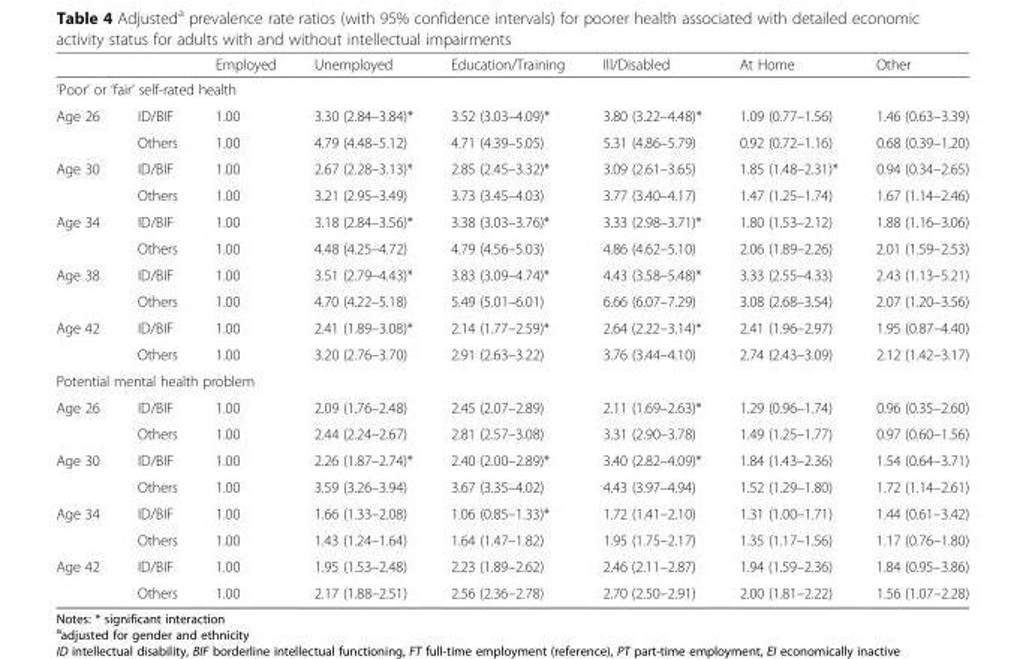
<table><thead><tr><td></td><td></td><td>Employed</td><td>Unemployed</td><td>Education/Training</td><td>Ill/Disabled</td><td>At Home</td><td>Other</td></tr></thead><tbody><tr><td colspan="8">‘Poor’ or ‘fair’ self-rated health</td></tr><tr><td rowspan="2">Age 26</td><td>ID/BIF</td><td>1.00</td><td>3.30 (2.84–3.84)*</td><td>3.52 (3.03–4.09)*</td><td>3.80 (3.22–4.48)*</td><td>1.09 (0.77–1.56)</td><td>1.46 (0.63–3.39)</td></tr><tr><td>Others</td><td>1.00</td><td>4.79 (4.48–5.12)</td><td>4.71 (4.39–5.05)</td><td>5.31 (4.86–5.79)</td><td>0.92 (0.72–1.16)</td><td>0.68 (0.39–1.20)</td></tr><tr><td rowspan="2">Age 30</td><td>ID/BIF</td><td>1.00</td><td>2.67 (2.28–3.13)*</td><td>2.85 (2.45–3.32)*</td><td>3.09 (2.61–3.65)</td><td>1.85 (1.48–2.31)*</td><td>0.94 (0.34–2.65)</td></tr><tr><td>Others</td><td>1.00</td><td>3.21 (2.95–3.49)</td><td>3.73 (3.45–4.03)</td><td>3.77 (3.40–4.17)</td><td>1.47 (1.25–1.74)</td><td>1.67 (1.14–2.46)</td></tr><tr><td rowspan="2">Age 34</td><td>ID/BIF</td><td>1.00</td><td>3.18 (2.84–3.56)*</td><td>3.38 (3.03–3.76)*</td><td>3.33 (2.98–3.71)*</td><td>1.80 (1.53–2.12)</td><td>1.88 (1.16–3.06)</td></tr><tr><td>Others</td><td>1.00</td><td>4.48 (4.25–4.72)</td><td>4.79 (4.56–5.03)</td><td>4.86 (4.62–5.10)</td><td>2.06 (1.89–2.26)</td><td>2.01 (1.59–2.53)</td></tr><tr><td rowspan="2">Age 38</td><td>ID/BIF</td><td>1.00</td><td>3.51 (2.79–4.43)*</td><td>3.83 (3.09–4.74)*</td><td>4.43 (3.58–5.48)*</td><td>3.33 (2.55–4.33)</td><td>2.43 (1.13–5.21)</td></tr><tr><td>Others</td><td>1.00</td><td>4.70 (4.22–5.18)</td><td>5.49 (5.01–6.01)</td><td>6.66 (6.07–7.29)</td><td>3.08 (2.68–3.54)</td><td>2.07 (1.20–3.56)</td></tr><tr><td rowspan="2">Age 42</td><td>ID/BIF</td><td>1.00</td><td>2.41 (1.89–3.08)*</td><td>2.14 (1.77–2.59)*</td><td>2.64 (2.22–3.14)*</td><td>2.41 (1.96–2.97)</td><td>1.95 (0.87–4.40)</td></tr><tr><td>Others</td><td>1.00</td><td>3.20 (2.76–3.70)</td><td>2.91 (2.63–3.22)</td><td>3.76 (3.44–4.10)</td><td>2.74 (2.43–3.09)</td><td>2.12 (1.42–3.17)</td></tr><tr><td colspan="8">Potential mental health problem</td></tr><tr><td rowspan="2">Age 26</td><td>ID/BIF</td><td>1.00</td><td>2.09 (1.76–2.48)</td><td>2.45 (2.07–2.89)</td><td>2.11 (1.69–2.63)*</td><td>1.29 (0.96–1.74)</td><td>0.96 (0.35–2.60)</td></tr><tr><td>Others</td><td>1.00</td><td>2.44 (2.24–2.67)</td><td>2.81 (2.57–3.08)</td><td>3.31 (2.90–3.78)</td><td>1.49 (1.25–1.77)</td><td>0.97 (0.60–1.56)</td></tr><tr><td rowspan="2">Age 30</td><td>ID/BIF</td><td>1.00</td><td>2.26 (1.87–2.74)*</td><td>2.40 (2.00–2.89)*</td><td>3.40 (2.82–4.09)*</td><td>1.84 (1.43–2.36)</td><td>1.54 (0.64–3.71)</td></tr><tr><td>Others</td><td>1.00</td><td>3.59 (3.26–3.94)</td><td>3.67 (3.35–4.02)</td><td>4.43 (3.97–4.94)</td><td>1.52 (1.29–1.80)</td><td>1.72 (1.14–2.61)</td></tr><tr><td rowspan="2">Age 34</td><td>ID/BIF</td><td>1.00</td><td>1.66 (1.33–2.08)</td><td>1.06 (0.85–1.33)*</td><td>1.72 (1.41–2.10)</td><td>1.31 (1.00–1.71)</td><td>1.44 (0.61–3.42)</td></tr><tr><td>Others</td><td>1.00</td><td>1.43 (1.24–1.64)</td><td>1.64 (1.47–1.82)</td><td>1.95 (1.75–2.17)</td><td>1.35 (1.17–1.56)</td><td>1.17 (0.76–1.80)</td></tr><tr><td rowspan="2">Age 42</td><td>ID/BIF</td><td>1.00</td><td>1.95 (1.53–2.48)</td><td>2.23 (1.89–2.62)</td><td>2.46 (2.11–2.87)</td><td>1.94 (1.59–2.36)</td><td>1.84 (0.95–3.86)</td></tr><tr><td>Others</td><td>1.00</td><td>2.17 (1.88–2.51)</td><td>2.56 (2.36–2.78)</td><td>2.70 (2.50–2.91)</td><td>2.00 (1.81–2.22)</td><td>1.56 (1.07–2.28)</td></tr></tbody></table>